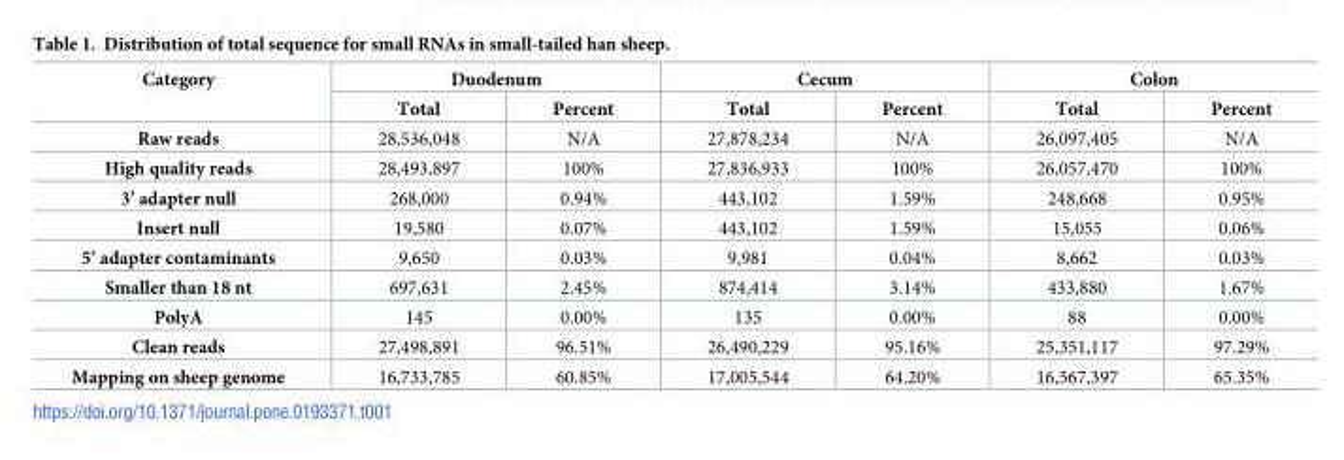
<table><thead><tr><td rowspan="2">Category</td><td colspan="2">Duodenum</td><td colspan="2">Cecum</td><td colspan="2">Colon</td></tr><tr><td>Total</td><td>Percent</td><td>Total</td><td>Percent</td><td>Total</td><td>Percent</td></tr></thead><tbody><tr><td>Raw reads</td><td>28,536,048</td><td>N/A</td><td>27,878,234</td><td>N/A</td><td>26,097,405</td><td>N/A</td></tr><tr><td>High quality reads</td><td>28,493,897</td><td>100%</td><td>27,836,933</td><td>100%</td><td>26,057,470</td><td>100%</td></tr><tr><td>3’ adapter null</td><td>268,000</td><td>0.94%</td><td>443,102</td><td>1.59%</td><td>248,668</td><td>0.95%</td></tr><tr><td>Insert null</td><td>19,580</td><td>0.07%</td><td>443,102</td><td>1.59%</td><td>15,055</td><td>0.06%</td></tr><tr><td>5’ adapter contaminants</td><td>9,650</td><td>0.03%</td><td>9,981</td><td>0.04%</td><td>8,662</td><td>0.03%</td></tr><tr><td>Smaller than 18 nt</td><td>697,631</td><td>2.45%</td><td>874,414</td><td>3.14%</td><td>433,880</td><td>1.67%</td></tr><tr><td>PolyA</td><td>145</td><td>0.00%</td><td>135</td><td>0.00%</td><td>88</td><td>0.00%</td></tr><tr><td>Clean reads</td><td>27,498,891</td><td>96.51%</td><td>26,490,229</td><td>95.16%</td><td>25,351,117</td><td>97.29%</td></tr><tr><td>Mapping on sheep genome</td><td>16,733,785</td><td>60.85%</td><td>17,005,544</td><td>64.20%</td><td>16,567,397</td><td>65.35%</td></tr></tbody></table>